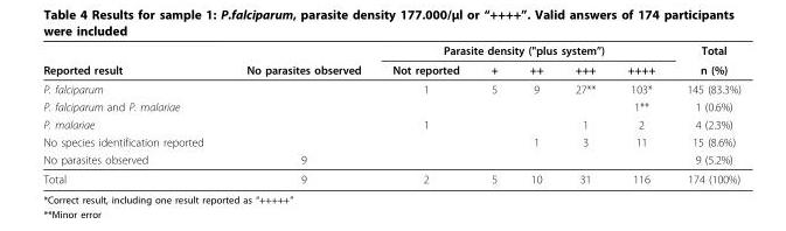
<table><thead><tr><td rowspan="2">Reported result</td><td rowspan="2">No parasites observed</td><td colspan="5">Parasite density (&quot;plus system”)</td><td rowspan="2">Total n (%)</td></tr><tr><td>Not reported</td><td>+</td><td>++</td><td>+++</td><td>++++</td></tr></thead><tbody><tr><td>P. falciparum</td><td></td><td>1</td><td>5</td><td>9</td><td>27**</td><td>103*</td><td>145 (83.3%)</td></tr><tr><td>P. falciparum and P. malariae</td><td></td><td></td><td></td><td></td><td></td><td>1**</td><td>1 (0.6%)</td></tr><tr><td>P. malariae</td><td></td><td>1</td><td></td><td></td><td>1</td><td>2</td><td>4 (2.3%)</td></tr><tr><td>No species identification reported</td><td></td><td></td><td></td><td>1</td><td>3</td><td>11</td><td>15 (8.6%)</td></tr><tr><td>No parasites observed</td><td>9</td><td></td><td></td><td></td><td></td><td></td><td>9 (5.2%)</td></tr><tr><td>Total</td><td>9</td><td>2</td><td>5</td><td>10</td><td>31</td><td>116</td><td>174 (100%)</td></tr></tbody></table>